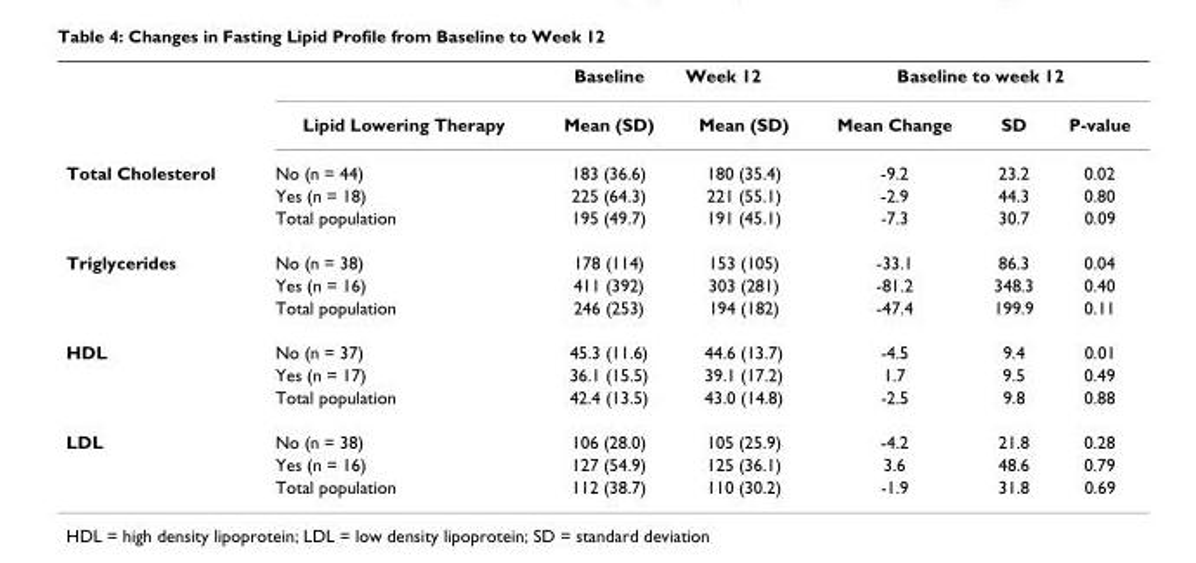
<table><thead><tr><td rowspan="2"></td><td rowspan="2">Lipid Lowering Therapy</td><td rowspan="2">Baseline Mean (SD)</td><td rowspan="2">Week 12 Mean (SD)</td><td colspan="3">Baseline to week 12</td></tr><tr><td>Mean Change</td><td>SD</td><td>P-value</td></tr></thead><tbody><tr><td rowspan="3">Total Cholesterol</td><td>No (n = 44)</td><td>183 (36.6)</td><td>180 (35.4)</td><td>-9.2</td><td>23.2</td><td>0.02</td></tr><tr><td>Yes (n = 18)</td><td>225 (64.3)</td><td>221 (55.1)</td><td>-2.9</td><td>44.3</td><td>0.80</td></tr><tr><td>Total population</td><td>195 (49.7)</td><td>191 (45.1)</td><td>-7.3</td><td>30.7</td><td>0.09</td></tr><tr><td rowspan="3">Triglycerides</td><td>No (n = 38)</td><td>178 (114)</td><td>153 (105)</td><td>-33.1</td><td>86.3</td><td>0.04</td></tr><tr><td>Yes (n = 16)</td><td>411 (392)</td><td>303 (281)</td><td>-81.2</td><td>348.3</td><td>0.40</td></tr><tr><td>Total population</td><td>246 (253)</td><td>194 (182)</td><td>-47.4</td><td>199.9</td><td>0.11</td></tr><tr><td rowspan="3">HDL</td><td>No (n = 37)</td><td>45.3 (11.6)</td><td>44.6 (13.7)</td><td>-4.5</td><td>9.4</td><td>0.01</td></tr><tr><td>Yes (n = 17)</td><td>36.1 (15.5)</td><td>39.1 (17.2)</td><td>1.7</td><td>9.5</td><td>0.49</td></tr><tr><td>Total population</td><td>42.4 (13.5)</td><td>43.0 (14.8)</td><td>-2.5</td><td>9.8</td><td>0.88</td></tr><tr><td rowspan="3">LDL</td><td>No (n = 38)</td><td>106 (28.0)</td><td>105 (25.9)</td><td>-4.2</td><td>21.8</td><td>0.28</td></tr><tr><td>Yes (n = 16)</td><td>127 (54.9)</td><td>125 (36.1)</td><td>3.6</td><td>48.6</td><td>0.79</td></tr><tr><td>Total population</td><td>112 (38.7)</td><td>110 (30.2)</td><td>-1.9</td><td>31.8</td><td>0.69</td></tr></tbody></table>